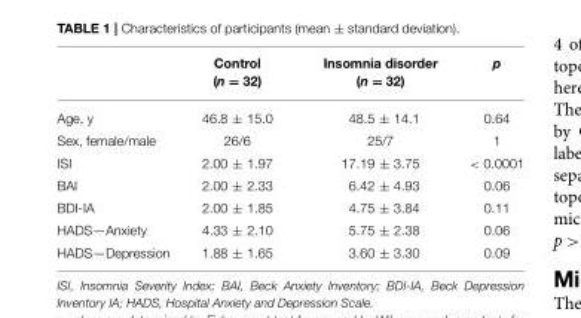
<table><thead><tr><td></td><td>Control (n = 32)</td><td>Insomnia disorder (n = 32)</td><td>p</td></tr></thead><tbody><tr><td>Age, y</td><td>46.8 ± 15.0</td><td>48.5 ± 14.1</td><td>0.64</td></tr><tr><td>Sex, female/male</td><td>26/6</td><td>25/7</td><td>1</td></tr><tr><td>ISI</td><td>2.00 ± 1.97</td><td>17.19 ± 3.75</td><td>&lt; 0.0001</td></tr><tr><td>BAI</td><td>2.00 ± 2.33</td><td>6.42 ± 4.93</td><td>0.06</td></tr><tr><td>BDI-IA</td><td>2.00 ± 1.85</td><td>4.75 ± 3.84</td><td>0.11</td></tr><tr><td>HADS—Anxiety</td><td>4.33 ± 2.10</td><td>5.75 ± 2.38</td><td>0.06</td></tr><tr><td>HADS—Depression</td><td>1.88 ± 1.65</td><td>3.60 ± 3.30</td><td>0.09</td></tr></tbody></table>